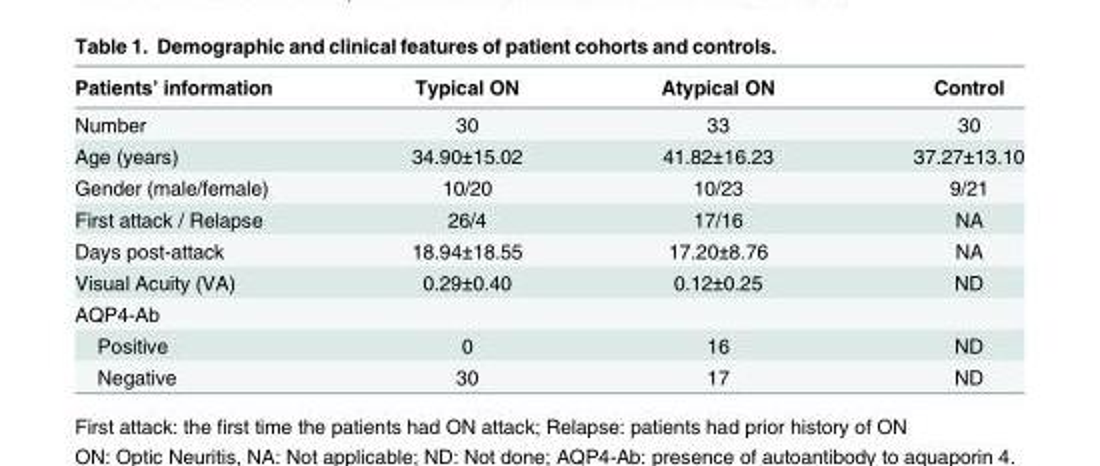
<table><thead><tr><td>Patients’ information</td><td>Typical ON</td><td>Atypical ON</td><td>Control</td></tr></thead><tbody><tr><td>Number</td><td>30</td><td>33</td><td>30</td></tr><tr><td>Age (years)</td><td>34.90±15.02</td><td>41.82±16.23</td><td>37.27±13.10</td></tr><tr><td>Gender (male/female)</td><td>10/20</td><td>10/23</td><td>9/21</td></tr><tr><td>First attack / Relapse</td><td>26/4</td><td>17/16</td><td>NA</td></tr><tr><td>Days post-attack</td><td>18.94±18.55</td><td>17.20±8.76</td><td>NA</td></tr><tr><td>Visual Acuity (VA)</td><td>0.29±0.40</td><td>0.12±0.25</td><td>ND</td></tr><tr><td colspan="4">AQP4-Ab</td></tr><tr><td>Positive</td><td>0</td><td>16</td><td>ND</td></tr><tr><td>Negative</td><td>30</td><td>17</td><td>ND</td></tr></tbody></table>